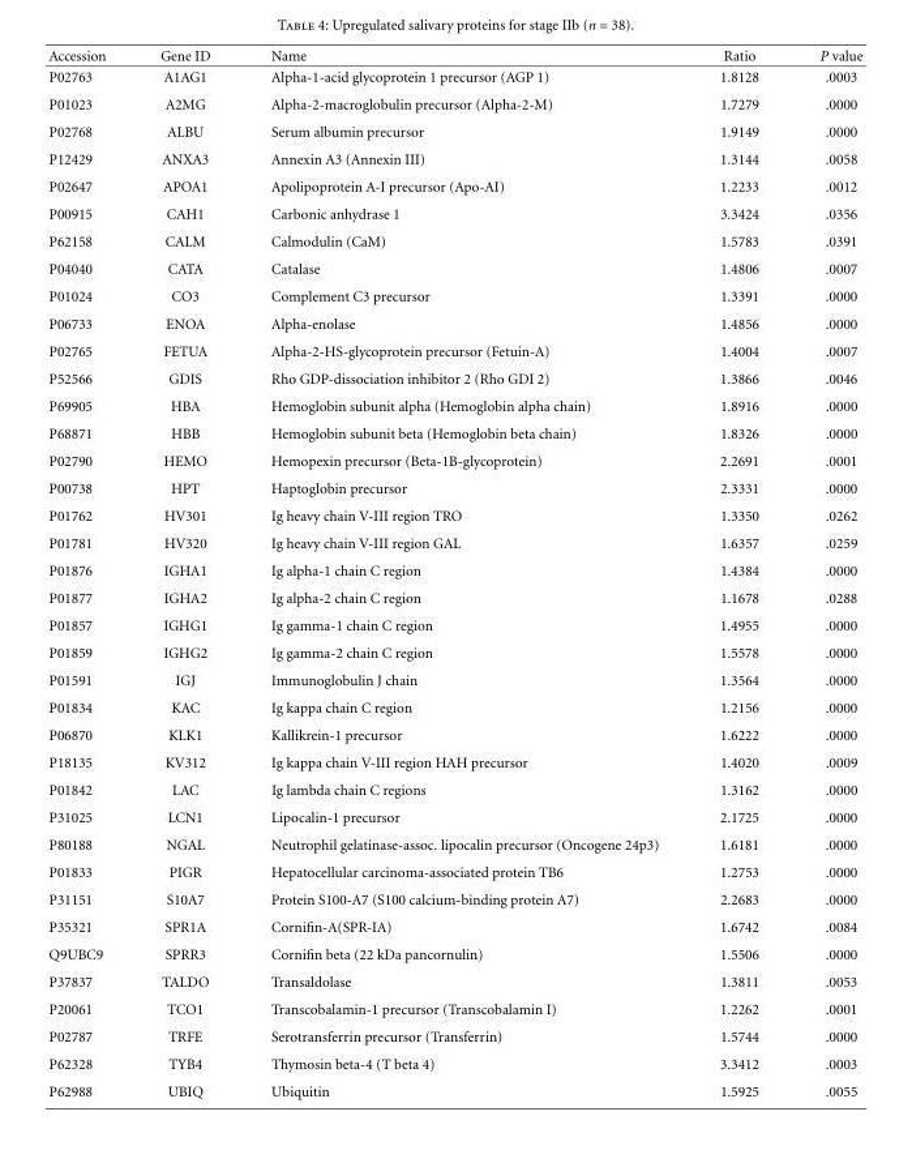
<table><thead><tr><td>Accession</td><td>Gene ID</td><td>Name</td><td>Ratio</td><td>P value</td></tr></thead><tbody><tr><td>P02763</td><td>A1AG1</td><td>Alpha-1-acid glycoprotein 1 precursor (AGP 1)</td><td>1.8128</td><td>.0003</td></tr><tr><td>P01023</td><td>A2MG</td><td>Alpha-2-macroglobulin precursor (Alpha-2-M)</td><td>1.7279</td><td>.0000</td></tr><tr><td>P02768</td><td>ALBU</td><td>Serum albumin precursor</td><td>1.9149</td><td>.0000</td></tr><tr><td>P12429</td><td>ANXA3</td><td>Annexin A3 (Annexin III)</td><td>1.3144</td><td>.0058</td></tr><tr><td>P02647</td><td>APOA1</td><td>Apolipoprotein A-I precursor (Apo-AI)</td><td>1.2233</td><td>.0012</td></tr><tr><td>P00915</td><td>CAH1</td><td>Carbonic anhydrase 1</td><td>3.3424</td><td>.0356</td></tr><tr><td>P62158</td><td>CALM</td><td>Calmodulin (CaM)</td><td>1.5783</td><td>.0391</td></tr><tr><td>P04040</td><td>CATA</td><td>Catalase</td><td>1.4806</td><td>.0007</td></tr><tr><td>P01024</td><td>CO3</td><td>Complement C3 precursor</td><td>1.3391</td><td>.0000</td></tr><tr><td>P06733</td><td>ENOA</td><td>Alpha-enolase</td><td>1.4856</td><td>.0000</td></tr><tr><td>P02765</td><td>FETUA</td><td>Alpha-2-HS-glycoprotein precursor (Fetuin-A)</td><td>1.4004</td><td>.0007</td></tr><tr><td>P52566</td><td>GDIS</td><td>Rho GDP-dissociation inhibitor 2 (Rho GDI 2)</td><td>1.3866</td><td>.0046</td></tr><tr><td>P69905</td><td>HBA</td><td>Hemoglobin subunit alpha (Hemoglobin alpha chain)</td><td>1.8916</td><td>.0000</td></tr><tr><td>P68871</td><td>HBB</td><td>Hemoglobin subunit beta (Hemoglobin beta chain)</td><td>1.8326</td><td>.0000</td></tr><tr><td>P02790</td><td>HEMO</td><td>Hemopexin precursor (Beta-1B-glycoprotein)</td><td>2.2691</td><td>.0001</td></tr><tr><td>P00738</td><td>HPT</td><td>Haptoglobin precursor</td><td>2.3331</td><td>.0000</td></tr><tr><td>P01762</td><td>HV301</td><td>Ig heavy chain V-III region TRO</td><td>1.3350</td><td>.0262</td></tr><tr><td>P01781</td><td>HV320</td><td>Ig heavy chain V-III region GAL</td><td>1.6357</td><td>.0259</td></tr><tr><td>P01876</td><td>IGHA1</td><td>Ig alpha-1 chain C region</td><td>1.4384</td><td>.0000</td></tr><tr><td>P01877</td><td>IGHA2</td><td>Ig alpha-2 chain C region</td><td>1.1678</td><td>.0288</td></tr><tr><td>P01857</td><td>IGHG1</td><td>Ig gamma-1 chain C region</td><td>1.4955</td><td>.0000</td></tr><tr><td>P01859</td><td>IGHG2</td><td>Ig gamma-2 chain C region</td><td>1.5578</td><td>.0000</td></tr><tr><td>P01591</td><td>IGJ</td><td>Immunoglobulin J chain</td><td>1.3564</td><td>.0000</td></tr><tr><td>P01834</td><td>KAC</td><td>Ig kappa chain C region</td><td>1.2156</td><td>.0000</td></tr><tr><td>P06870</td><td>KLK1</td><td>Kallikrein-1 precursor</td><td>1.6222</td><td>.0000</td></tr><tr><td>P18135</td><td>KV312</td><td>Ig kappa chain V-III region HAH precursor</td><td>1.4020</td><td>.0009</td></tr><tr><td>P01842</td><td>LAC</td><td>Ig lambda chain C regions</td><td>1.3162</td><td>.0000</td></tr><tr><td>P31025</td><td>LCN1</td><td>Lipocalin-1 precursor</td><td>2.1725</td><td>.0000</td></tr><tr><td>P80188</td><td>NGAL</td><td>Neutrophil gelatinase-assoc. lipocalin precursor (Oncogene 24p3)</td><td>1.6181</td><td>.0000</td></tr><tr><td>P01833</td><td>PIGR</td><td>Hepatocellular carcinoma-associated protein TB6</td><td>1.2753</td><td>.0000</td></tr><tr><td>P31151</td><td>S10A7</td><td>Protein S100-A7 (S100 calcium-binding protein A7)</td><td>2.2683</td><td>.0000</td></tr><tr><td>P35321</td><td>SPR1A</td><td>Cornifin-A(SPR-IA)</td><td>1.6742</td><td>.0084</td></tr><tr><td>Q9UBC9</td><td>SPRR3</td><td>Cornifin beta (22 kDa pancornulin)</td><td>1.5506</td><td>.0000</td></tr><tr><td>P37837</td><td>TALDO</td><td>Transaldolase</td><td>1.3811</td><td>.0053</td></tr><tr><td>P20061</td><td>TCO1</td><td>Transcobalamin-1 precursor (Transcobalamin I)</td><td>1.2262</td><td>.0001</td></tr><tr><td>P02787</td><td>TRFE</td><td>Serotransferrin precursor (Transferrin)</td><td>1.5744</td><td>.0000</td></tr><tr><td>P62328</td><td>TYB4</td><td>Thymosin beta-4 (T beta 4)</td><td>3.3412</td><td>.0003</td></tr><tr><td>P62988</td><td>UBIQ</td><td>Ubiquitin</td><td>1.5925</td><td>.0055</td></tr></tbody></table>